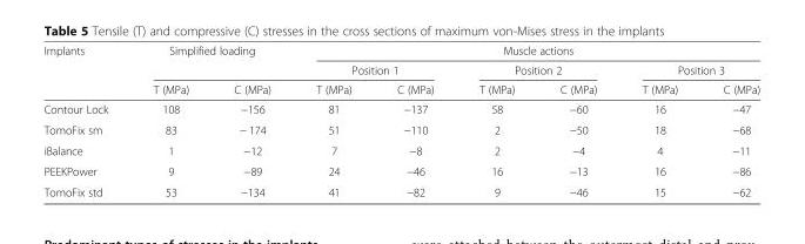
<table><thead><tr><td rowspan="3">Implants</td><td rowspan="2" colspan="2">Simplified loading</td><td colspan="6">Muscle actions</td></tr><tr><td colspan="2">Position 1</td><td colspan="2">Position 2</td><td colspan="2">Position 3</td></tr><tr><td>T (MPa)</td><td>C (MPa)</td><td>T (MPa)</td><td>C (MPa)</td><td>T (MPa)</td><td>C (MPa)</td><td>T (MPa)</td><td>C (MPa)</td></tr></thead><tbody><tr><td>Contour Lock</td><td>108</td><td>−156</td><td>81</td><td>−137</td><td>58</td><td>−60</td><td>16</td><td>−47</td></tr><tr><td>TomoFix sm</td><td>83</td><td>− 174</td><td>51</td><td>−110</td><td>2</td><td>−50</td><td>18</td><td>−68</td></tr><tr><td>iBalance</td><td>1</td><td>−12</td><td>7</td><td>−8</td><td>2</td><td>−4</td><td>4</td><td>−11</td></tr><tr><td>PEEKPower</td><td>9</td><td>−89</td><td>24</td><td>−46</td><td>16</td><td>−13</td><td>16</td><td>−86</td></tr><tr><td>TomoFix std</td><td>53</td><td>−134</td><td>41</td><td>−82</td><td>9</td><td>−46</td><td>15</td><td>−62</td></tr></tbody></table>